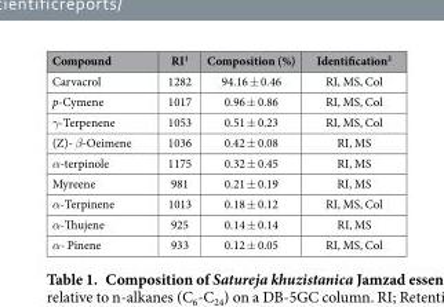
<table><thead><tr><td>Compound</td><td>RI<sup>1</sup></td><td>Composition (%)</td><td>Identification<sup>2</sup></td></tr></thead><tbody><tr><td>Carvacrol</td><td>1282</td><td>94.16 ± 0.46</td><td>RI, MS, Col</td></tr><tr><td>p-Cymene</td><td>1017</td><td>0.96 ± 0.86</td><td>RI, MS, Col</td></tr><tr><td>γ-Terpenene</td><td>1053</td><td>0.51 ± 0.23</td><td>RI, MS, Col</td></tr><tr><td>(Z)- β-Oeimene</td><td>1036</td><td>0.42 ± 0.08</td><td>RI, MS</td></tr><tr><td>α-terpinole</td><td>1175</td><td>0.32 ± 0.45</td><td>RI, MS</td></tr><tr><td>Myreene</td><td>981</td><td>0.21 ± 0.19</td><td>RI, MS</td></tr><tr><td>α-Terpinene</td><td>1013</td><td>0.18 ± 0.12</td><td>RI, MS, Col</td></tr><tr><td>α-Thujene</td><td>925</td><td>0.14 ± 0.14</td><td>RI, MS</td></tr><tr><td>α- Pinene</td><td>933</td><td>0.12 ± 0.05</td><td>RI, MS, Col</td></tr></tbody></table>